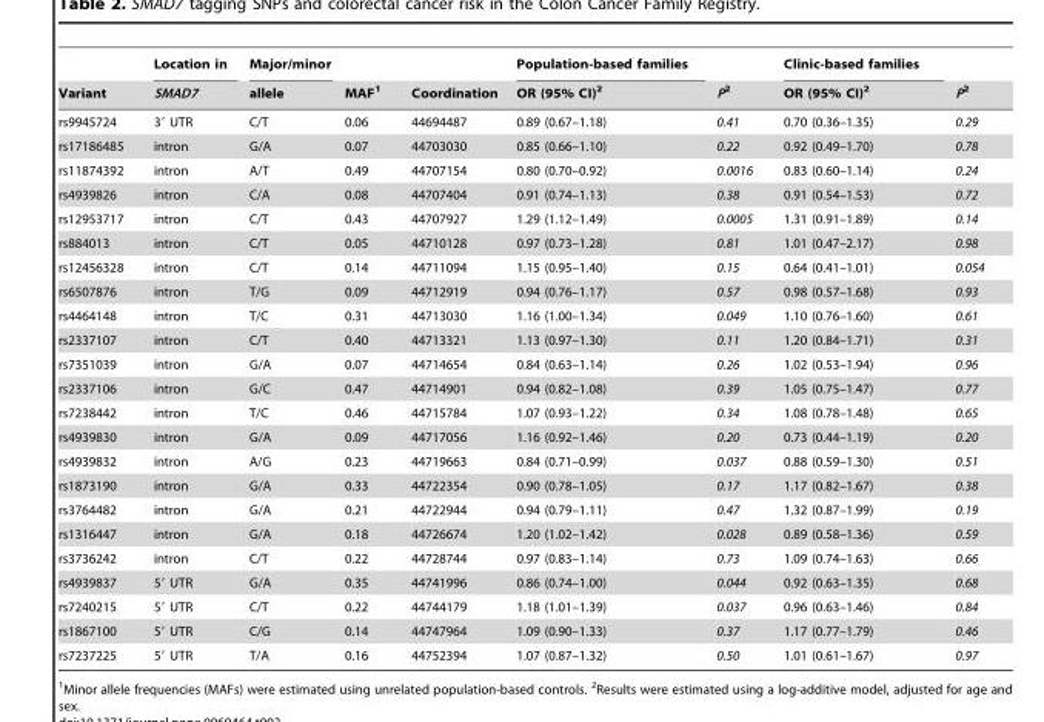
<table><thead><tr><td rowspan="2">Variant</td><td rowspan="2">Location in SMAD7</td><td rowspan="2">Major/minor allele</td><td rowspan="2">MAF<sup>1</sup></td><td rowspan="2">Coordination</td><td rowspan="2">Population-based families OR (95% CI)<sup>2</sup></td><td rowspan="2">P<sup>2</sup></td><td rowspan="2">Clinic-based families OR (95% CI)<sup>2</sup></td><td rowspan="2">P<sup>2</sup></td></tr><tr></tr></thead><tbody><tr><td>rs9945724</td><td>3′ UTR</td><td>C/T</td><td>0.06</td><td>44694487</td><td>0.89 (0.67–1.18)</td><td>0.41</td><td>0.70 (0.36–1.35)</td><td>0.29</td></tr><tr><td>rs17186485</td><td>intron</td><td>G/A</td><td>0.07</td><td>44703030</td><td>0.85 (0.66–1.10)</td><td>0.22</td><td>0.92 (0.49–1.70)</td><td>0.78</td></tr><tr><td>rs11874392</td><td>intron</td><td>A/T</td><td>0.49</td><td>44707154</td><td>0.80 (0.70–0.92)</td><td>0.0016</td><td>0.83 (0.60–1.14)</td><td>0.24</td></tr><tr><td>rs4939826</td><td>intron</td><td>C/A</td><td>0.08</td><td>44707404</td><td>0.91 (0.74–1.13)</td><td>0.38</td><td>0.91 (0.54–1.53)</td><td>0.72</td></tr><tr><td>rs12953717</td><td>intron</td><td>C/T</td><td>0.43</td><td>44707927</td><td>1.29 (1.12–1.49)</td><td>0.0005</td><td>1.31 (0.91–1.89)</td><td>0.14</td></tr><tr><td>rs884013</td><td>intron</td><td>C/T</td><td>0.05</td><td>44710128</td><td>0.97 (0.73–1.28)</td><td>0.81</td><td>1.01 (0.47–2.17)</td><td>0.98</td></tr><tr><td>rs12456328</td><td>intron</td><td>C/T</td><td>0.14</td><td>44711094</td><td>1.15 (0.95–1.40)</td><td>0.15</td><td>0.64 (0.41–1.01)</td><td>0.054</td></tr><tr><td>rs6507876</td><td>intron</td><td>T/G</td><td>0.09</td><td>44712919</td><td>0.94 (0.76–1.17)</td><td>0.57</td><td>0.98 (0.57–1.68)</td><td>0.93</td></tr><tr><td>rs4464148</td><td>intron</td><td>T/C</td><td>0.31</td><td>44713030</td><td>1.16 (1.00–1.34)</td><td>0.049</td><td>1.10 (0.76–1.60)</td><td>0.61</td></tr><tr><td>rs2337107</td><td>intron</td><td>C/T</td><td>0.40</td><td>44713321</td><td>1.13 (0.97–1.30)</td><td>0.11</td><td>1.20 (0.84–1.71)</td><td>0.31</td></tr><tr><td>rs7351039</td><td>intron</td><td>G/A</td><td>0.07</td><td>44714654</td><td>0.84 (0.63–1.14)</td><td>0.26</td><td>1.02 (0.53–1.94)</td><td>0.96</td></tr><tr><td>rs2337106</td><td>intron</td><td>G/C</td><td>0.47</td><td>44714901</td><td>0.94 (0.82–1.08)</td><td>0.39</td><td>1.05 (0.75–1.47)</td><td>0.77</td></tr><tr><td>rs7238442</td><td>intron</td><td>T/C</td><td>0.46</td><td>44715784</td><td>1.07 (0.93–1.22)</td><td>0.34</td><td>1.08 (0.78–1.48)</td><td>0.65</td></tr><tr><td>rs4939830</td><td>intron</td><td>G/A</td><td>0.09</td><td>44717056</td><td>1.16 (0.92–1.46)</td><td>0.20</td><td>0.73 (0.44–1.19)</td><td>0.20</td></tr><tr><td>rs4939832</td><td>intron</td><td>A/G</td><td>0.23</td><td>44719663</td><td>0.84 (0.71–0.99)</td><td>0.037</td><td>0.88 (0.59–1.30)</td><td>0.51</td></tr><tr><td>rs1873190</td><td>intron</td><td>G/A</td><td>0.33</td><td>44722354</td><td>0.90 (0.78–1.05)</td><td>0.17</td><td>1.17 (0.82–1.67)</td><td>0.38</td></tr><tr><td>rs3764482</td><td>intron</td><td>G/A</td><td>0.21</td><td>44722944</td><td>0.94 (0.79–1.11)</td><td>0.47</td><td>1.32 (0.87–1.99)</td><td>0.19</td></tr><tr><td>rs1316447</td><td>intron</td><td>G/A</td><td>0.18</td><td>44726674</td><td>1.20 (1.02–1.42)</td><td>0.028</td><td>0.89 (0.58–1.36)</td><td>0.59</td></tr><tr><td>rs3736242</td><td>intron</td><td>C/T</td><td>0.22</td><td>44728744</td><td>0.97 (0.83–1.14)</td><td>0.73</td><td>1.09 (0.74–1.63)</td><td>0.66</td></tr><tr><td>rs4939837</td><td>5′ UTR</td><td>G/A</td><td>0.35</td><td>44741996</td><td>0.86 (0.74–1.00)</td><td>0.044</td><td>0.92 (0.63–1.35)</td><td>0.68</td></tr><tr><td>rs7240215</td><td>5′ UTR</td><td>C/T</td><td>0.22</td><td>44744179</td><td>1.18 (1.01–1.39)</td><td>0.037</td><td>0.96 (0.63–1.46)</td><td>0.84</td></tr><tr><td>rs1867100</td><td>5′ UTR</td><td>C/G</td><td>0.14</td><td>44747964</td><td>1.09 (0.90–1.33)</td><td>0.37</td><td>1.17 (0.77–1.79)</td><td>0.46</td></tr><tr><td>rs7237225</td><td>5′ UTR</td><td>T/A</td><td>0.16</td><td>44752394</td><td>1.07 (0.87–1.32)</td><td>0.50</td><td>1.01 (0.61–1.67)</td><td>0.97</td></tr></tbody></table>